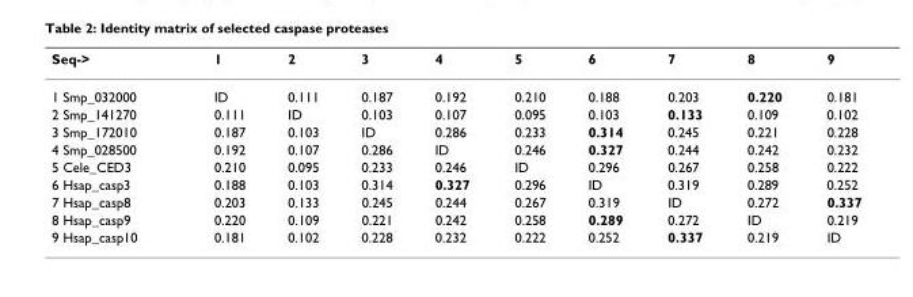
<table><thead><tr><td>Seq-&gt;</td><td>1</td><td>2</td><td>3</td><td>4</td><td>5</td><td>6</td><td>7</td><td>8</td><td>9</td></tr></thead><tbody><tr><td>1 Smp_032000</td><td>ID</td><td>0.111</td><td>0.187</td><td>0.192</td><td>0.210</td><td>0.188</td><td>0.203</td><td>0.220</td><td>0.181</td></tr><tr><td>2 Smp_141270</td><td>0.111</td><td>ID</td><td>0.103</td><td>0.107</td><td>0.095</td><td>0.103</td><td>0.133</td><td>0.109</td><td>0.102</td></tr><tr><td>3 Smp_172010</td><td>0.187</td><td>0.103</td><td>ID</td><td>0.286</td><td>0.233</td><td>0.314</td><td>0.245</td><td>0.221</td><td>0.228</td></tr><tr><td>4 Smp_028500</td><td>0.192</td><td>0.107</td><td>0.286</td><td>ID</td><td>0.246</td><td>0.327</td><td>0.244</td><td>0.242</td><td>0.232</td></tr><tr><td>5 Cele_CED3</td><td>0.210</td><td>0.095</td><td>0.233</td><td>0.246</td><td>ID</td><td>0.296</td><td>0.267</td><td>0.258</td><td>0.222</td></tr><tr><td>6 Hsap_casp3</td><td>0.188</td><td>0.103</td><td>0.314</td><td>0.327</td><td>0.296</td><td>ID</td><td>0.319</td><td>0.289</td><td>0.252</td></tr><tr><td>7 Hsap_casp8</td><td>0.203</td><td>0.133</td><td>0.245</td><td>0.244</td><td>0.267</td><td>0.319</td><td>ID</td><td>0.272</td><td>0.337</td></tr><tr><td>8 Hsap_casp9</td><td>0.220</td><td>0.109</td><td>0.221</td><td>0.242</td><td>0.258</td><td>0.289</td><td>0.272</td><td>ID</td><td>0.219</td></tr><tr><td>9 Hsap_casp10</td><td>0.181</td><td>0.102</td><td>0.228</td><td>0.232</td><td>0.222</td><td>0.252</td><td>0.337</td><td>0.219</td><td>ID</td></tr></tbody></table>